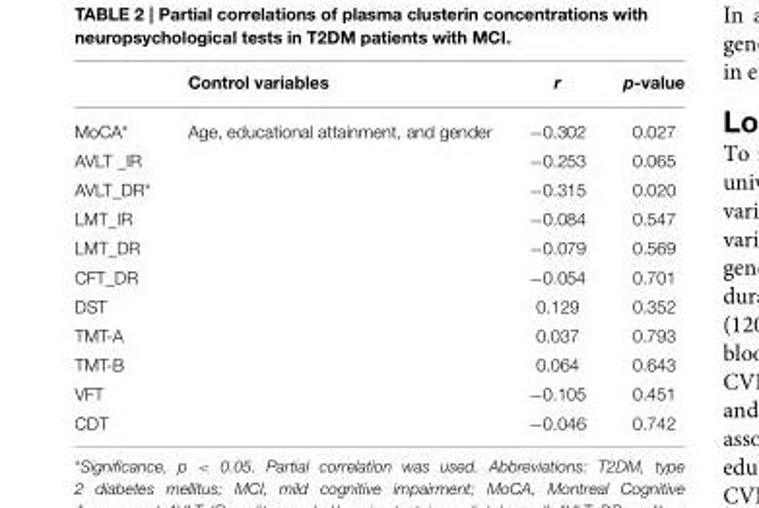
<table><thead><tr><td></td><td>Control variables</td><td>r</td><td>p-value</td></tr></thead><tbody><tr><td>MoCA*</td><td>Age, educational attainment, and gender</td><td>−0.302</td><td>0.027</td></tr><tr><td>AVLT _IR</td><td></td><td>−0.253</td><td>0.065</td></tr><tr><td>AVLT_DR*</td><td></td><td>−0.315</td><td>0.020</td></tr><tr><td>LMT_IR</td><td></td><td>−0.084</td><td>0.547</td></tr><tr><td>LMT_DR</td><td></td><td>−0.079</td><td>0.569</td></tr><tr><td>CFT_DR</td><td></td><td>−0.054</td><td>0.701</td></tr><tr><td>DST</td><td></td><td>0.129</td><td>0.352</td></tr><tr><td>TMT-A</td><td></td><td>0.037</td><td>0.793</td></tr><tr><td>TMT-B</td><td></td><td>0.064</td><td>0.643</td></tr><tr><td>VFT</td><td></td><td>−0.105</td><td>0.451</td></tr><tr><td>CDT</td><td></td><td>−0.046</td><td>0.742</td></tr></tbody></table>